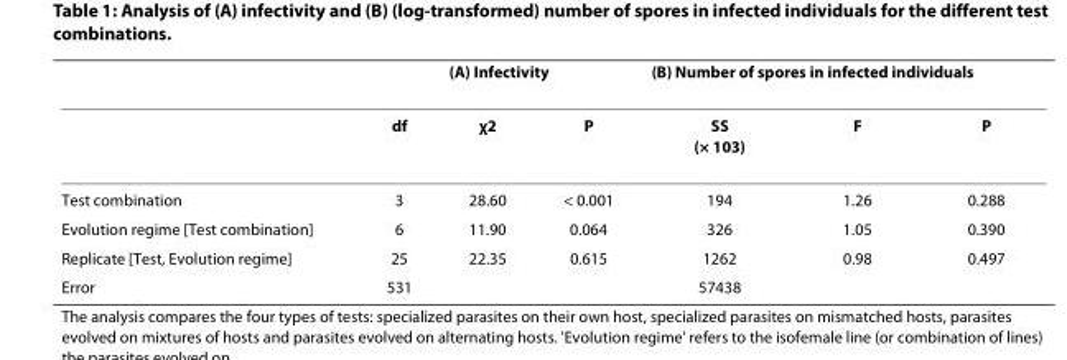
<table><thead><tr><td rowspan="2"></td><td rowspan="2">df</td><td colspan="2">(A) Infectivity</td><td colspan="3">(B) Number of spores in infected individuals</td></tr><tr><td>χ<sup>2</sup></td><td>P</td><td>SS (× 103)</td><td>F</td><td>P</td></tr></thead><tbody><tr><td>Test combination</td><td>3</td><td>28.60</td><td>&lt; 0.001</td><td>194</td><td>1.26</td><td>0.288</td></tr><tr><td>Evolution regime [Test combination]</td><td>6</td><td>11.90</td><td>0.064</td><td>326</td><td>1.05</td><td>0.390</td></tr><tr><td>Replicate [Test, Evolution regime]</td><td>25</td><td>22.35</td><td>0.615</td><td>1262</td><td>0.98</td><td>0.497</td></tr><tr><td>Error</td><td>531</td><td></td><td></td><td>57438</td><td></td><td></td></tr></tbody></table>